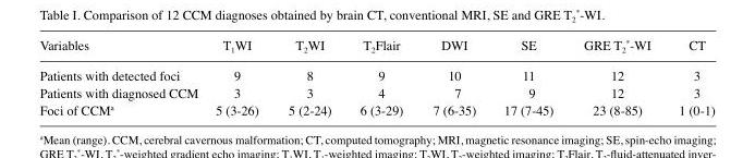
<table><thead><tr><td>Variables</td><td>T<sub>1</sub>WI</td><td>T<sub>2</sub>WI</td><td>T<sub>2</sub>Flair</td><td>DWI</td><td>SE</td><td>GRE T<sub>2</sub> *-WI</td><td>CT</td></tr></thead><tbody><tr><td>Patients with detected foci</td><td>9</td><td>8</td><td>9</td><td>10</td><td>11</td><td>12</td><td>3</td></tr><tr><td>Patients with diagnosed CCM</td><td>3</td><td>3</td><td>4</td><td>7</td><td>9</td><td>12</td><td>3</td></tr><tr><td>Foci of CCM<sup>a</sup></td><td>5 (3-26)</td><td>5 (2-24)</td><td>6 (3-29)</td><td>7 (6-35)</td><td>17 (7-45)</td><td>23 (8-85)</td><td>1 (0-1)</td></tr></tbody></table>